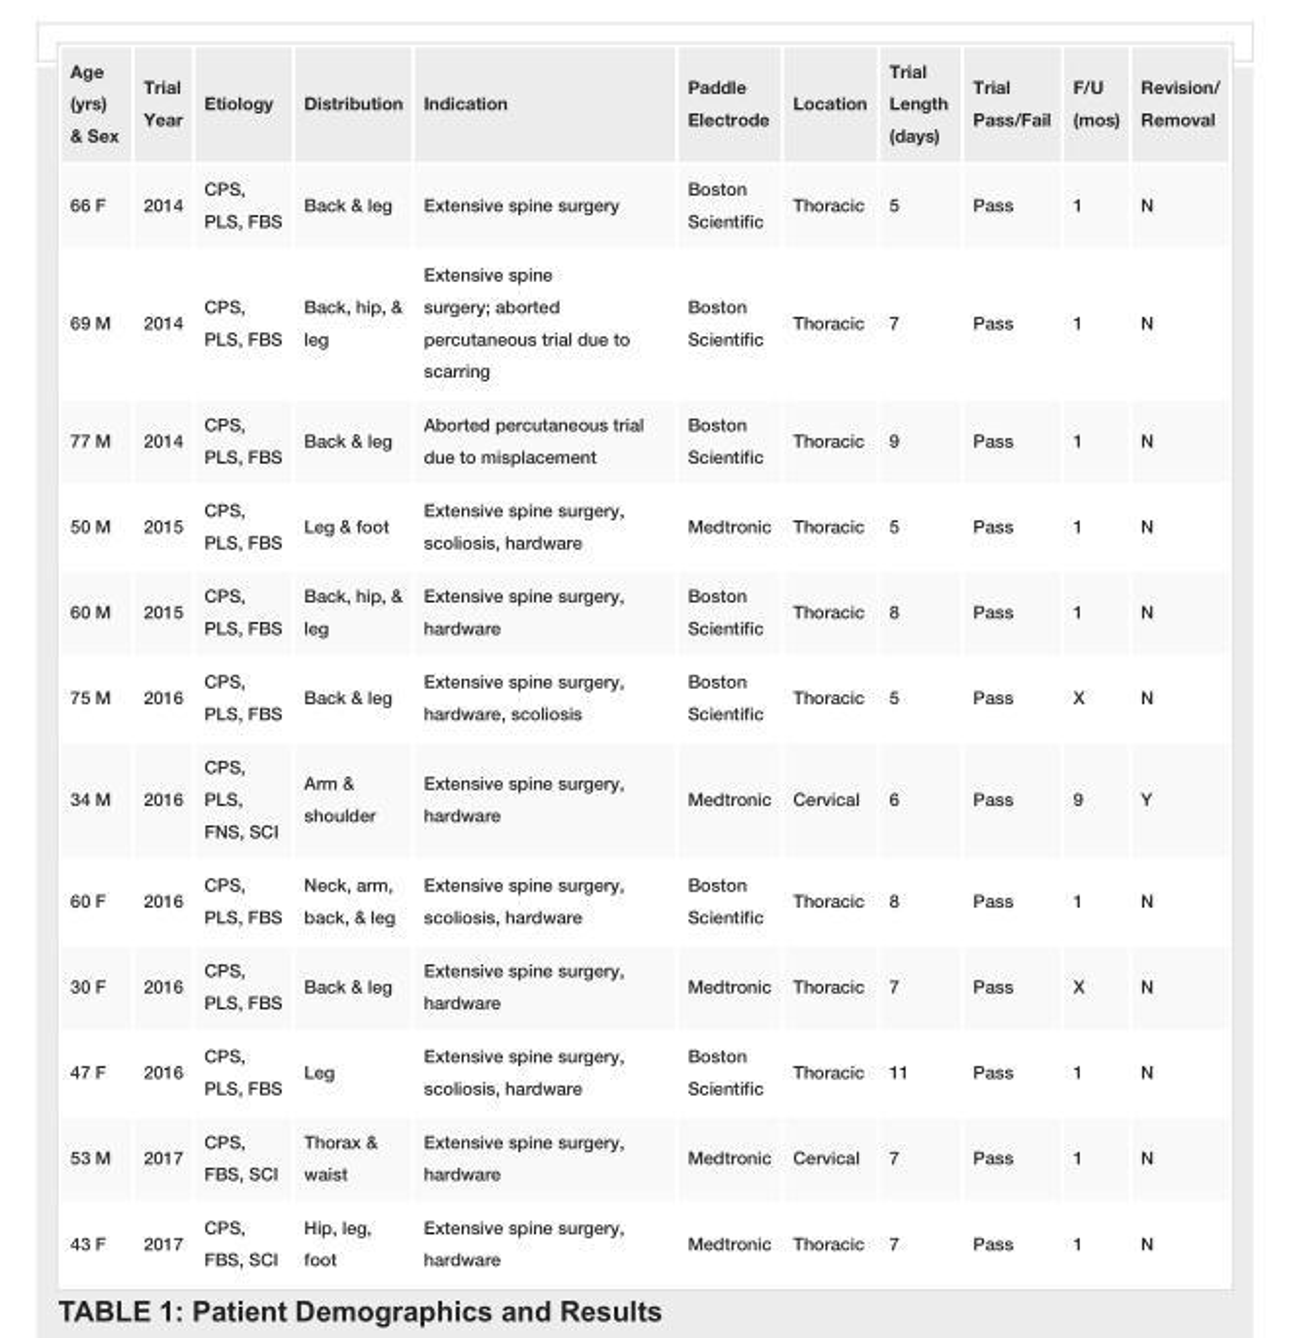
<table><tbody><tr><td>Age (yrs) &amp; Sex</td><td>Trial Year</td><td>Etiology</td><td>Distribution</td><td>Indication</td><td>Paddle Electrode</td><td>Location</td><td>Trial Length (days)</td><td>Trial Pass/Fail</td><td>F/U (mos)</td><td>Revision/ Removal</td></tr><tr><td>66 F</td><td>2014</td><td>CPS, PLS, FBS</td><td>Back &amp; leg</td><td>Extensive spine surgery</td><td>Boston Scientific</td><td>Thoracic</td><td>5</td><td>Pass</td><td>1</td><td>N</td></tr><tr><td>69 M</td><td>2014</td><td>CPS, PLS, FBS</td><td>Back, hip, &amp; leg</td><td>Extensive spine surgery; aborted percutaneous trial due to scarring</td><td>Boston Scientific</td><td>Thoracic</td><td>7</td><td>Pass</td><td>1</td><td>N</td></tr><tr><td>77 M</td><td>2014</td><td>CPS, PLS, FBS</td><td>Back &amp; leg</td><td>Aborted percutaneous trial due to misplacement</td><td>Boston Scientific</td><td>Thoracic</td><td>9</td><td>Pass</td><td>1</td><td>N</td></tr><tr><td>50 M</td><td>2015</td><td>CPS, PLS, FBS</td><td>Leg &amp; foot</td><td>Extensive spine surgery, scoliosis, hardware</td><td>Medtronic</td><td>Thoracic</td><td>5</td><td>Pass</td><td>1</td><td>N</td></tr><tr><td>60 M</td><td>2015</td><td>CPS, PLS, FBS</td><td>Back, hip, &amp; leg</td><td>Extensive spine surgery, hardware</td><td>Boston Scientific</td><td>Thoracic</td><td>8</td><td>Pass</td><td>1</td><td>N</td></tr><tr><td>75 M</td><td>2016</td><td>CPS, PLS, FBS</td><td>Back &amp; leg</td><td>Extensive spine surgery, hardware, scoliosis</td><td>Boston Scientific</td><td>Thoracic</td><td>5</td><td>Pass</td><td>X</td><td>N</td></tr><tr><td>34 M</td><td>2016</td><td>CPS, PLS, FNS, SCI</td><td>Arm &amp; shoulder</td><td>Extensive spine surgery, hardware</td><td>Medtronic</td><td>Cervical</td><td>6</td><td>Pass</td><td>9</td><td>Y</td></tr><tr><td>60 F</td><td>2016</td><td>CPS, PLS, FBS</td><td>Neck, arm, back, &amp; leg</td><td>Extensive spine surgery, scoliosis, hardware</td><td>Boston Scientific</td><td>Thoracic</td><td>8</td><td>Pass</td><td>1</td><td>N</td></tr><tr><td>30 F</td><td>2016</td><td>CPS, PLS, FBS</td><td>Back &amp; leg</td><td>Extensive spine surgery, hardware</td><td>Medtronic</td><td>Thoracic</td><td>7</td><td>Pass</td><td>X</td><td>N</td></tr><tr><td>47 F</td><td>2016</td><td>CPS, PLS, FBS</td><td>Leg</td><td>Extensive spine surgery, scoliosis, hardware</td><td>Boston Scientific</td><td>Thoracic</td><td>11</td><td>Pass</td><td>1</td><td>N</td></tr><tr><td>53 M</td><td>2017</td><td>CPS, FBS, SCI</td><td>Thorax &amp; waist</td><td>Extensive spine surgery, hardware</td><td>Medtronic</td><td>Cervical</td><td>7</td><td>Pass</td><td>1</td><td>N</td></tr><tr><td>43 F</td><td>2017</td><td>CPS, FBS, SCI</td><td>Hip, leg, foot</td><td>Extensive spine surgery, hardware</td><td>Medtronic</td><td>Thoracic</td><td>7</td><td>Pass</td><td>1</td><td>N</td></tr></tbody></table>